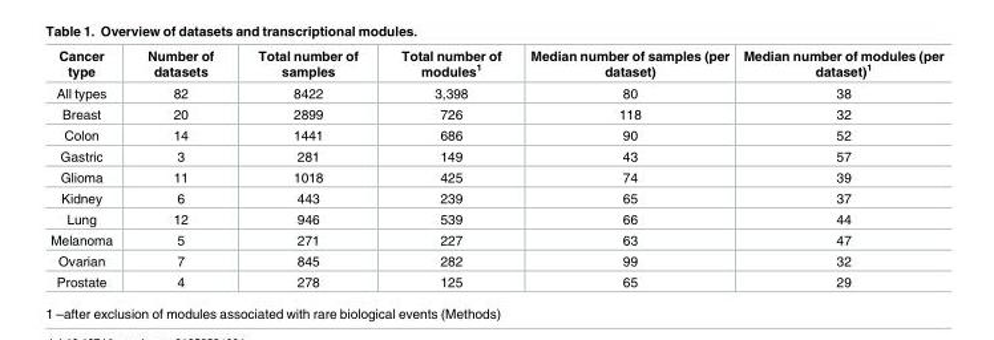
<table><thead><tr><td>Cancer type</td><td>Number of datasets</td><td>Total number of samples</td><td>Total number of modules<sup>1</sup></td><td>Median number of samples (per dataset)</td><td>Median number of modules (per dataset)<sup>1</sup></td></tr></thead><tbody><tr><td>All types</td><td>82</td><td>8422</td><td>3,398</td><td>80</td><td>38</td></tr><tr><td>Breast</td><td>20</td><td>2899</td><td>726</td><td>118</td><td>32</td></tr><tr><td>Colon</td><td>14</td><td>1441</td><td>686</td><td>90</td><td>52</td></tr><tr><td>Gastric</td><td>3</td><td>281</td><td>149</td><td>43</td><td>57</td></tr><tr><td>Glioma</td><td>11</td><td>1018</td><td>425</td><td>74</td><td>39</td></tr><tr><td>Kidney</td><td>6</td><td>443</td><td>239</td><td>65</td><td>37</td></tr><tr><td>Lung</td><td>12</td><td>946</td><td>539</td><td>66</td><td>44</td></tr><tr><td>Melanoma</td><td>5</td><td>271</td><td>227</td><td>63</td><td>47</td></tr><tr><td>Ovarian</td><td>7</td><td>845</td><td>282</td><td>99</td><td>32</td></tr><tr><td>Prostate</td><td>4</td><td>278</td><td>125</td><td>65</td><td>29</td></tr></tbody></table>